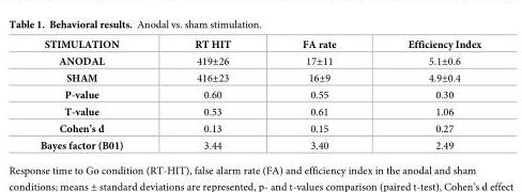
<table><thead><tr><td>STIMULATION</td><td>RT HIT</td><td>FA rate</td><td>Efficiency Index</td></tr></thead><tbody><tr><td>ANODAL</td><td>419±26</td><td>17±11</td><td>5.1±0.6</td></tr><tr><td>SHAM</td><td>416±23</td><td>16±9</td><td>4.9±0.4</td></tr><tr><td>P-value</td><td>0.60</td><td>0.55</td><td>0.30</td></tr><tr><td>T-value</td><td>0.53</td><td>0.61</td><td>1.06</td></tr><tr><td>Cohen’s d</td><td>0.13</td><td>0.15</td><td>0.27</td></tr><tr><td>Bayes factor (B01)</td><td>3.44</td><td>3.40</td><td>2.49</td></tr></tbody></table>